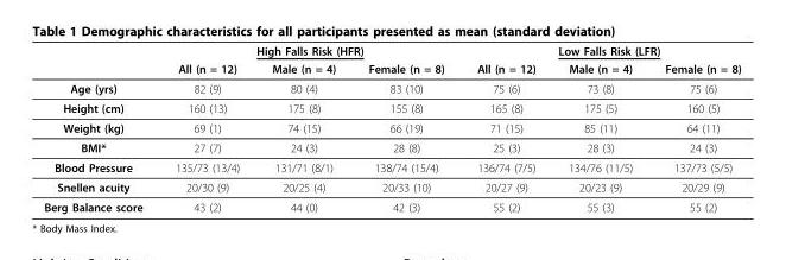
<table><thead><tr><td rowspan="2"></td><td colspan="3">High Falls Risk (HFR)</td><td colspan="3">Low Falls Risk (LFR)</td></tr><tr><td>All (n = 12)</td><td>Male (n = 4)</td><td>Female (n = 8)</td><td>All (n = 12)</td><td>Male (n = 4)</td><td>Female (n = 8)</td></tr></thead><tbody><tr><td>Age (yrs)</td><td>82 (9)</td><td>80 (4)</td><td>83 (10)</td><td>75 (6)</td><td>73 (8)</td><td>75 (6)</td></tr><tr><td>Height (cm)</td><td>160 (13)</td><td>175 (8)</td><td>155 (8)</td><td>165 (8)</td><td>175 (5)</td><td>160 (5)</td></tr><tr><td>Weight (kg)</td><td>69 (1)</td><td>74 (15)</td><td>66 (19)</td><td>71 (15)</td><td>85 (11)</td><td>64 (11)</td></tr><tr><td>BMI*</td><td>27 (7)</td><td>24 (3)</td><td>28 (8)</td><td>25 (3)</td><td>28 (3)</td><td>24 (3)</td></tr><tr><td>Blood Pressure</td><td>135/73 (13/4)</td><td>131/71 (8/1)</td><td>138/74 (15/4)</td><td>136/74 (7/5)</td><td>134/76 (11/5)</td><td>137/73 (5/5)</td></tr><tr><td>Snellen acuity</td><td>20/30 (9)</td><td>20/25 (4)</td><td>20/33 (10)</td><td>20/27 (9)</td><td>20/23 (9)</td><td>20/29 (9)</td></tr><tr><td>Berg Balance score</td><td>43 (2)</td><td>44 (0)</td><td>42 (3)</td><td>55 (2)</td><td>55 (3)</td><td>55 (2)</td></tr></tbody></table>